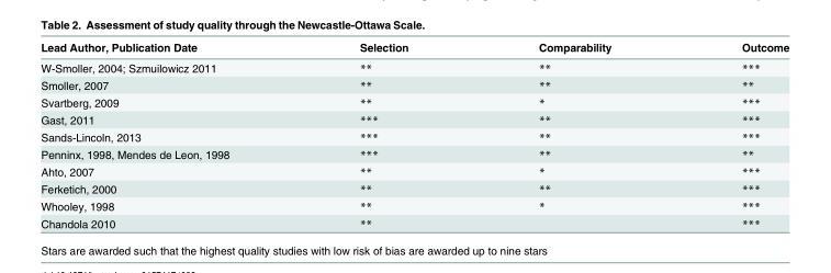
<table><thead><tr><td>Lead Author, Publication Date</td><td>Selection</td><td>Comparability</td><td>Outcome</td></tr></thead><tbody><tr><td>W-Smoller, 2004; Szmuilowicz 2011</td><td>**</td><td>**</td><td>***</td></tr><tr><td>Smoller, 2007</td><td>**</td><td>**</td><td>**</td></tr><tr><td>Svartberg, 2009</td><td>**</td><td>*</td><td>***</td></tr><tr><td>Gast, 2011</td><td>***</td><td>**</td><td>***</td></tr><tr><td>Sands-Lincoln, 2013</td><td>***</td><td>**</td><td>***</td></tr><tr><td>Penninx, 1998, Mendes de Leon, 1998</td><td>***</td><td>**</td><td>**</td></tr><tr><td>Ahto, 2007</td><td>**</td><td>*</td><td>***</td></tr><tr><td>Ferketich, 2000</td><td>**</td><td>**</td><td>***</td></tr><tr><td>Whooley, 1998</td><td>**</td><td>*</td><td>***</td></tr><tr><td>Chandola 2010</td><td>**</td><td></td><td>***</td></tr></tbody></table>